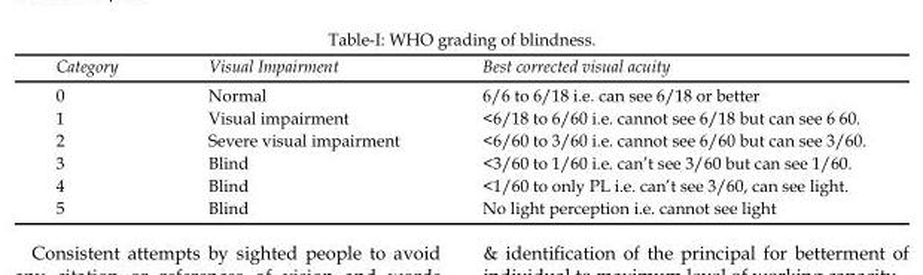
<table><thead><tr><td>Category</td><td>Visual Impairment</td><td>Best corrected visual acuity</td></tr></thead><tbody><tr><td>0</td><td>Normal</td><td>6/6 to 6/18 i.e. can see 6/18 or better</td></tr><tr><td>1</td><td>Visual impairment</td><td>&lt;6/18 to 6/60 i.e. cannot see 6/18 but can see 6 60.</td></tr><tr><td>2</td><td>Severe visual impairment</td><td>&lt;6/60 to 3/60 i.e. cannot see 6/60 but can see 3/60.</td></tr><tr><td>3</td><td>Blind</td><td>&lt;3/60 to 1/60 i.e. can’t see 3/60 but can see 1/60.</td></tr><tr><td>4</td><td>Blind</td><td>&lt;1/60 to only PL i.e. can’t see 3/60, can see light.</td></tr><tr><td>5</td><td>Blind</td><td>No light perception i.e. cannot see light</td></tr></tbody></table>